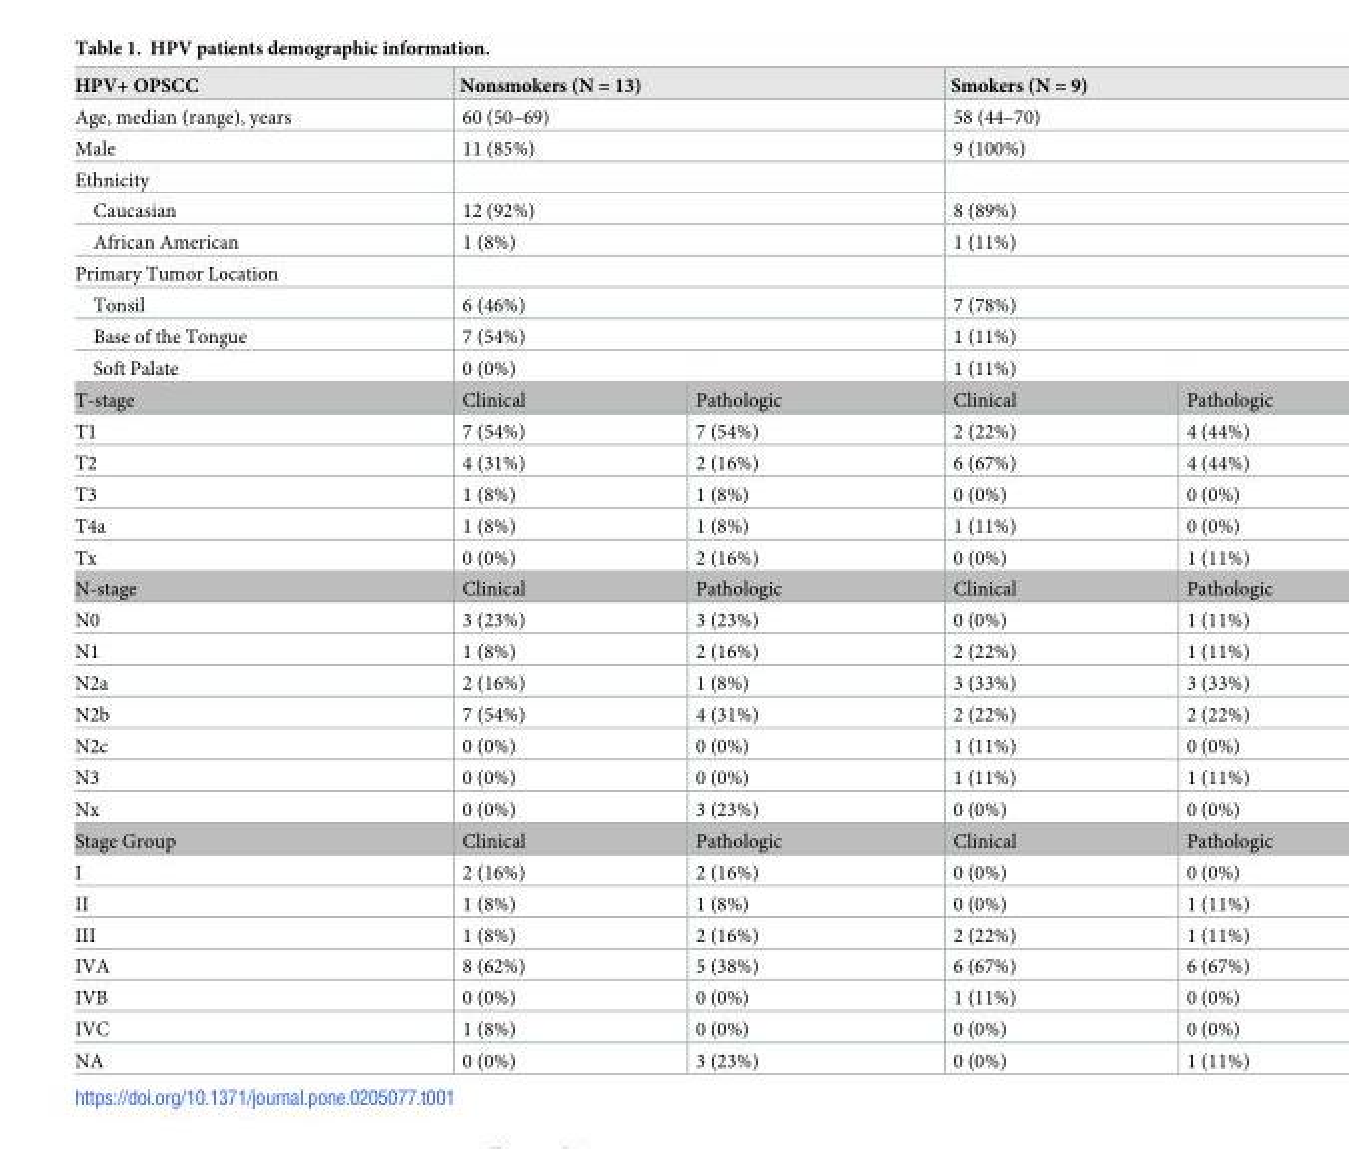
<table><thead><tr><td>HPV+ OPSCC</td><td colspan="2">Nonsmokers (N = 13)</td><td colspan="2">Smokers (N = 9)</td></tr></thead><tbody><tr><td>Age, median (range), years</td><td colspan="2">60 (50–69)</td><td colspan="2">58 (44–70)</td></tr><tr><td>Male</td><td colspan="2">11 (85%)</td><td colspan="2">9 (100%)</td></tr><tr><td colspan="5">Ethnicity</td></tr><tr><td>Caucasian</td><td colspan="2">12 (92%)</td><td colspan="2">8 (89%)</td></tr><tr><td>African American</td><td colspan="2">1 (8%)</td><td colspan="2">1 (11%)</td></tr><tr><td colspan="5">Primary Tumor Location</td></tr><tr><td>Tonsil</td><td colspan="2">6 (46%)</td><td colspan="2">7 (78%)</td></tr><tr><td>Base of the Tongue</td><td colspan="2">7 (54%)</td><td colspan="2">1 (11%)</td></tr><tr><td>Soft Palate</td><td colspan="2">0 (0%)</td><td colspan="2">1 (11%)</td></tr><tr><td>T-stage</td><td>Clinical</td><td>Pathologic</td><td>Clinical</td><td>Pathologic</td></tr><tr><td>T1</td><td>7 (54%)</td><td>7 (54%)</td><td>2 (22%)</td><td>4 (44%)</td></tr><tr><td>T2</td><td>4 (31%)</td><td>2 (16%)</td><td>6 (67%)</td><td>4 (44%)</td></tr><tr><td>T3</td><td>1 (8%)</td><td>1 (8%)</td><td>0 (0%)</td><td>0 (0%)</td></tr><tr><td>T4a</td><td>1 (8%)</td><td>1 (8%)</td><td>1 (11%)</td><td>0 (0%)</td></tr><tr><td>Tx</td><td>0 (0%)</td><td>2 (16%)</td><td>0 (0%)</td><td>1 (11%)</td></tr><tr><td>N-stage</td><td>Clinical</td><td>Pathologic</td><td>Clinical</td><td>Pathologic</td></tr><tr><td>N0</td><td>3 (23%)</td><td>3 (23%)</td><td>0 (0%)</td><td>1 (11%)</td></tr><tr><td>N1</td><td>1 (8%)</td><td>2 (16%)</td><td>2 (22%)</td><td>1 (11%)</td></tr><tr><td>N2a</td><td>2 (16%)</td><td>1 (8%)</td><td>3 (33%)</td><td>3 (33%)</td></tr><tr><td>N2b</td><td>7 (54%)</td><td>4 (31%)</td><td>2 (22%)</td><td>2 (22%)</td></tr><tr><td>N2c</td><td>0 (0%)</td><td>0 (0%)</td><td>1 (11%)</td><td>0 (0%)</td></tr><tr><td>N3</td><td>0 (0%)</td><td>0 (0%)</td><td>1 (11%)</td><td>1 (11%)</td></tr><tr><td>Nx</td><td>0 (0%)</td><td>3 (23%)</td><td>0 (0%)</td><td>0 (0%)</td></tr><tr><td>Stage Group</td><td>Clinical</td><td>Pathologic</td><td>Clinical</td><td>Pathologic</td></tr><tr><td>I</td><td>2 (16%)</td><td>2 (16%)</td><td>0 (0%)</td><td>0 (0%)</td></tr><tr><td>II</td><td>1 (8%)</td><td>1 (8%)</td><td>0 (0%)</td><td>1 (11%)</td></tr><tr><td>III</td><td>1 (8%)</td><td>2 (16%)</td><td>2 (22%)</td><td>1 (11%)</td></tr><tr><td>IVA</td><td>8 (62%)</td><td>5 (38%)</td><td>6 (67%)</td><td>6 (67%)</td></tr><tr><td>IVB</td><td>0 (0%)</td><td>0 (0%)</td><td>1 (11%)</td><td>0 (0%)</td></tr><tr><td>IVC</td><td>1 (8%)</td><td>0 (0%)</td><td>0 (0%)</td><td>0 (0%)</td></tr><tr><td>NA</td><td>0 (0%)</td><td>3 (23%)</td><td>0 (0%)</td><td>1 (11%)</td></tr></tbody></table>